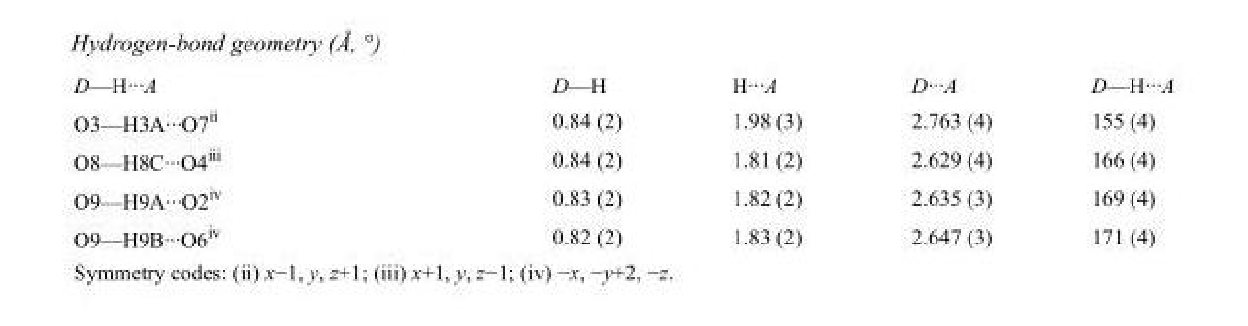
<table><tbody><tr><td>D—H···A</td><td>D—H</td><td>H···A</td><td>D···A</td><td>D—H···A</td></tr><tr><td>O3—H3A···O7<sup>ii</sup></td><td>0.84 (2)</td><td>1.98 (3)</td><td>2.763 (4)</td><td>155 (4)</td></tr><tr><td>O8—H8C···O4<sup>iii</sup></td><td>0.84 (2)</td><td>1.81 (2)</td><td>2.629 (4)</td><td>166 (4)</td></tr><tr><td>O9—H9A···O2<sup>iv</sup></td><td>0.83 (2)</td><td>1.82 (2)</td><td>2.635 (3)</td><td>169 (4)</td></tr><tr><td>O9—H9B···O6<sup>iv</sup></td><td>0.82 (2)</td><td>1.83 (2)</td><td>2.647 (3)</td><td>171 (4)</td></tr></tbody></table>